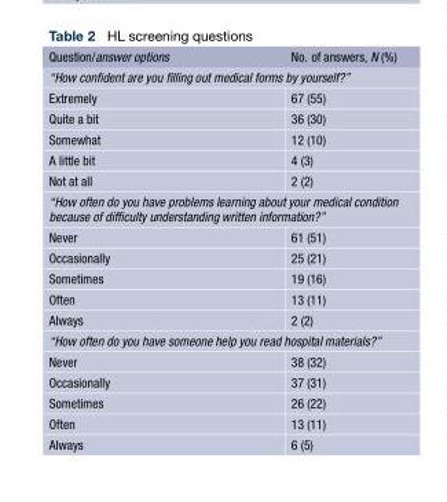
<table><thead><tr><td>Question/answer options</td><td>No. of answers, N (%)</td></tr></thead><tbody><tr><td colspan="2">“How confident are you filling out medical forms by yourself?”</td></tr><tr><td>Extremely</td><td>67 (55)</td></tr><tr><td>Quite a bit</td><td>36 (30)</td></tr><tr><td>Somewhat</td><td>12 (10)</td></tr><tr><td>A little bit</td><td>4 (3)</td></tr><tr><td>Not at all</td><td>2 (2)</td></tr><tr><td colspan="2">“How often do you have problems learning about your medical condition because of difficulty understanding written information?”</td></tr><tr><td>Never</td><td>61 (51)</td></tr><tr><td>Occasionally</td><td>25 (21)</td></tr><tr><td>Sometimes</td><td>19 (16)</td></tr><tr><td>Often</td><td>13 (11)</td></tr><tr><td>Always</td><td>2 (2)</td></tr><tr><td colspan="2">“How often do you have someone help you read hospital materials?”</td></tr><tr><td>Never</td><td>38 (32)</td></tr><tr><td>Occasionally</td><td>37 (31)</td></tr><tr><td>Sometimes</td><td>26 (22)</td></tr><tr><td>Often</td><td>13 (11)</td></tr><tr><td>Always</td><td>6 (5)</td></tr></tbody></table>